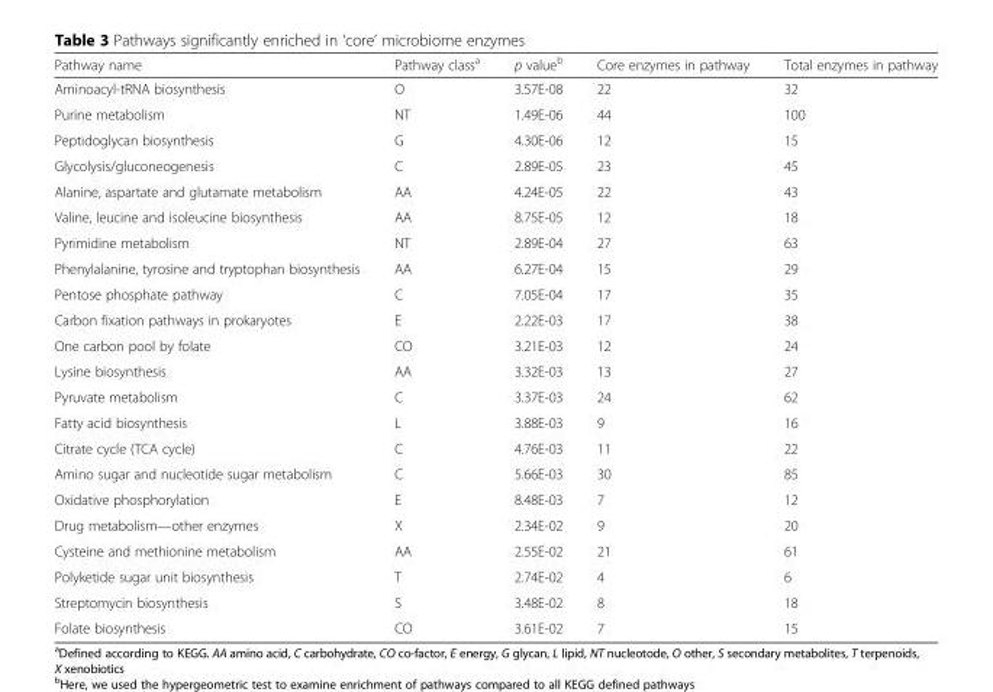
<table><thead><tr><td>Pathway name</td><td>Pathway class<sup>a</sup></td><td>p value<sup>b</sup></td><td>Core enzymes in pathway</td><td>Total enzymes in pathway</td></tr></thead><tbody><tr><td>Aminoacyl-tRNA biosynthesis</td><td>O</td><td>3.57E-08</td><td>22</td><td>32</td></tr><tr><td>Purine metabolism</td><td>NT</td><td>1.49E-06</td><td>44</td><td>100</td></tr><tr><td>Peptidoglycan biosynthesis</td><td>G</td><td>4.30E-06</td><td>12</td><td>15</td></tr><tr><td>Glycolysis/gluconeogenesis</td><td>C</td><td>2.89E-05</td><td>23</td><td>45</td></tr><tr><td>Alanine, aspartate and glutamate metabolism</td><td>AA</td><td>4.24E-05</td><td>22</td><td>43</td></tr><tr><td>Valine, leucine and isoleucine biosynthesis</td><td>AA</td><td>8.75E-05</td><td>12</td><td>18</td></tr><tr><td>Pyrimidine metabolism</td><td>NT</td><td>2.89E-04</td><td>27</td><td>63</td></tr><tr><td>Phenylalanine, tyrosine and tryptophan biosynthesis</td><td>AA</td><td>6.27E-04</td><td>15</td><td>29</td></tr><tr><td>Pentose phosphate pathway</td><td>C</td><td>7.05E-04</td><td>17</td><td>35</td></tr><tr><td>Carbon fixation pathways in prokaryotes</td><td>E</td><td>2.22E-03</td><td>17</td><td>38</td></tr><tr><td>One carbon pool by folate</td><td>CO</td><td>3.21E-03</td><td>12</td><td>24</td></tr><tr><td>Lysine biosynthesis</td><td>AA</td><td>3.32E-03</td><td>13</td><td>27</td></tr><tr><td>Pyruvate metabolism</td><td>C</td><td>3.37E-03</td><td>24</td><td>62</td></tr><tr><td>Fatty acid biosynthesis</td><td>L</td><td>3.88E-03</td><td>9</td><td>16</td></tr><tr><td>Citrate cycle (TCA cycle)</td><td>C</td><td>4.76E-03</td><td>11</td><td>22</td></tr><tr><td>Amino sugar and nucleotide sugar metabolism</td><td>C</td><td>5.66E-03</td><td>30</td><td>85</td></tr><tr><td>Oxidative phosphorylation</td><td>E</td><td>8.48E-03</td><td>7</td><td>12</td></tr><tr><td>Drug metabolism—other enzymes</td><td>X</td><td>2.34E-02</td><td>9</td><td>20</td></tr><tr><td>Cysteine and methionine metabolism</td><td>AA</td><td>2.55E-02</td><td>21</td><td>61</td></tr><tr><td>Polyketide sugar unit biosynthesis</td><td>T</td><td>2.74E-02</td><td>4</td><td>6</td></tr><tr><td>Streptomycin biosynthesis</td><td>S</td><td>3.48E-02</td><td>8</td><td>18</td></tr><tr><td>Folate biosynthesis</td><td>CO</td><td>3.61E-02</td><td>7</td><td>15</td></tr></tbody></table>